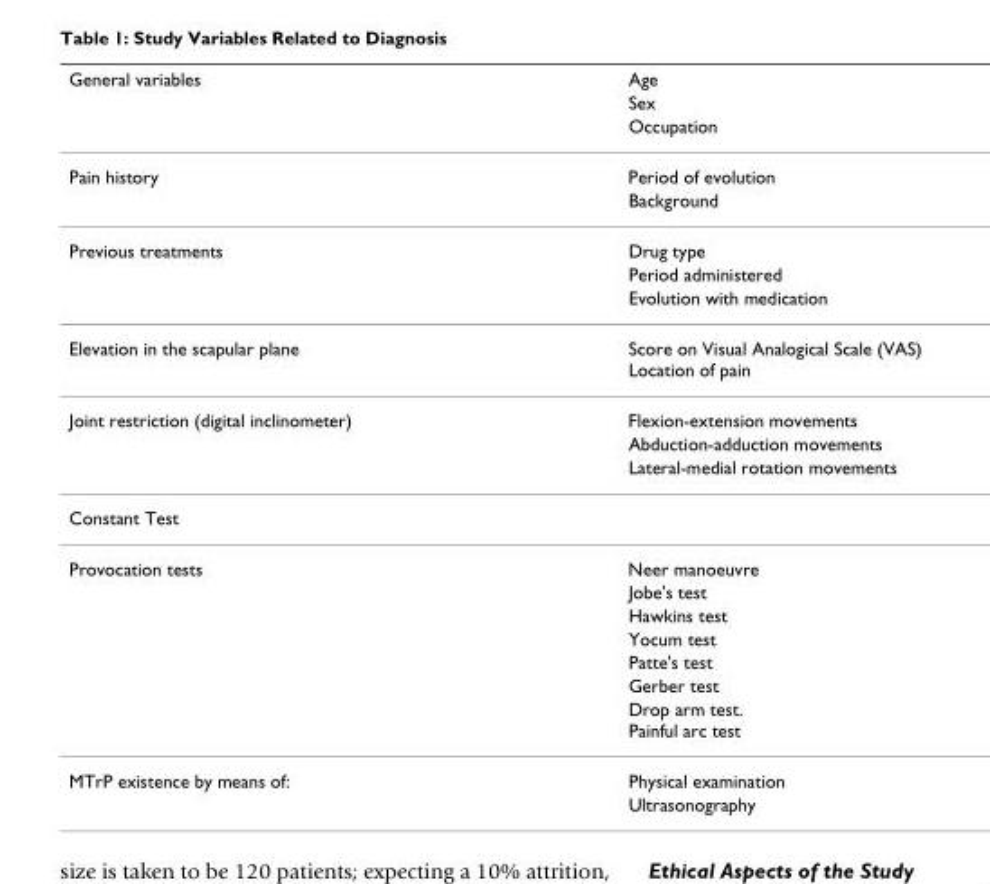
<table><thead><tr><td rowspan="3">General variables</td><td rowspan="3">Age Sex Occupation</td></tr><tr></tr><tr></tr></thead><tbody><tr><td rowspan="2">Pain history</td><td>Period of evolution</td></tr><tr><td>Background</td></tr><tr><td rowspan="3">Previous treatments</td><td>Drug type</td></tr><tr><td>Period administered</td></tr><tr><td>Evolution with medication</td></tr><tr><td>Elevation in the scapular plane</td><td>Score on Visual Analogical Scale (VAS) Location of pain</td></tr><tr><td rowspan="3">Joint restriction (digital inclinometer)</td><td>Flexion-extension movements</td></tr><tr><td>Abduction-adduction movements</td></tr><tr><td>Lateral-medial rotation movements</td></tr><tr><td colspan="2">Constant Test</td></tr><tr><td rowspan="7">Provocation tests</td><td>Neer manoeuvre</td></tr><tr><td>Jobe&#x27;s test</td></tr><tr><td>Hawkins test</td></tr><tr><td>Yocum test</td></tr><tr><td>Patte&#x27;s test</td></tr><tr><td>Gerber test</td></tr><tr><td>Drop arm test. Painful arc test</td></tr><tr><td rowspan="2">MTrP existence by means of:</td><td>Physical examination</td></tr><tr><td>Ultrasonography</td></tr></tbody></table>